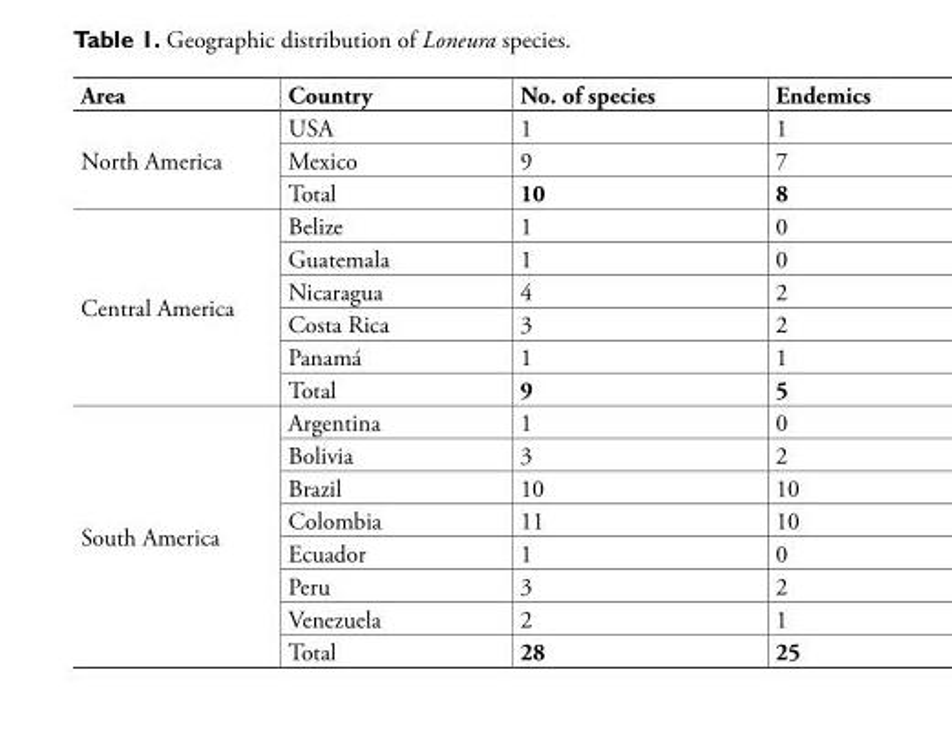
<table><thead><tr><td>Area</td><td>Country</td><td>No. of species</td><td>Endemics</td></tr></thead><tbody><tr><td rowspan="3">North America</td><td>USA</td><td>1</td><td>1</td></tr><tr><td>Mexico</td><td>9</td><td>7</td></tr><tr><td>Total</td><td>10</td><td>8</td></tr><tr><td rowspan="6">Central America</td><td>Belize</td><td>1</td><td>0</td></tr><tr><td>Guatemala</td><td>1</td><td>0</td></tr><tr><td>Nicaragua</td><td>4</td><td>2</td></tr><tr><td>Costa Rica</td><td>3</td><td>2</td></tr><tr><td>Panamá</td><td>1</td><td>1</td></tr><tr><td>Total</td><td>9</td><td>5</td></tr><tr><td rowspan="8">South America</td><td>Argentina</td><td>1</td><td>0</td></tr><tr><td>Bolivia</td><td>3</td><td>2</td></tr><tr><td>Brazil</td><td>10</td><td>10</td></tr><tr><td>Colombia</td><td>11</td><td>10</td></tr><tr><td>Ecuador</td><td>1</td><td>0</td></tr><tr><td>Peru</td><td>3</td><td>2</td></tr><tr><td>Venezuela</td><td>2</td><td>1</td></tr><tr><td>Total</td><td>28</td><td>25</td></tr></tbody></table>